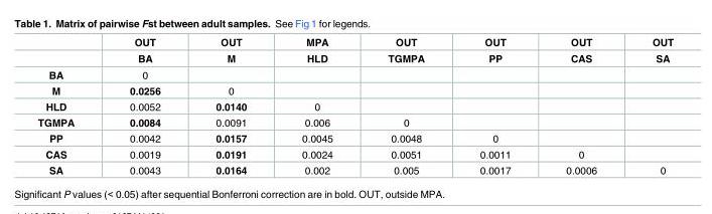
<table><thead><tr><td rowspan="2"></td><td rowspan="2">OUT BA</td><td rowspan="2">OUT M</td><td rowspan="2">MPA HLD</td><td rowspan="2">OUT TGMPA</td><td rowspan="2">OUT PP</td><td rowspan="2">OUT CAS</td><td rowspan="2">OUT SA</td></tr><tr></tr></thead><tbody><tr><td>BA</td><td>0</td><td></td><td></td><td></td><td></td><td></td><td></td></tr><tr><td>M</td><td>0.0256</td><td>0</td><td></td><td></td><td></td><td></td><td></td></tr><tr><td>HLD</td><td>0.0052</td><td>0.0140</td><td>0</td><td></td><td></td><td></td><td></td></tr><tr><td>TGMPA</td><td>0.0084</td><td>0.0091</td><td>0.006</td><td>0</td><td></td><td></td><td></td></tr><tr><td>PP</td><td>0.0042</td><td>0.0157</td><td>0.0045</td><td>0.0048</td><td>0</td><td></td><td></td></tr><tr><td>CAS</td><td>0.0019</td><td>0.0191</td><td>0.0024</td><td>0.0051</td><td>0.0011</td><td>0</td><td></td></tr><tr><td>SA</td><td>0.0043</td><td>0.0164</td><td>0.002</td><td>0.005</td><td>0.0017</td><td>0.0006</td><td>0</td></tr></tbody></table>